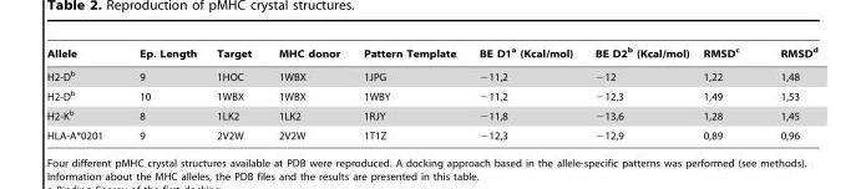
<table><thead><tr><td>Allele</td><td>Ep. Length</td><td>Target</td><td>MHC donor</td><td>Pattern Template</td><td>BE D1<sup>a</sup> (Kcal/mol)</td><td>BE D2<sup>b</sup> (Kcal/mol)</td><td>RMSD<sup>c</sup></td><td>RMSD<sup>d</sup></td></tr></thead><tbody><tr><td>H2-D<sup>b</sup></td><td>9</td><td>1HOC</td><td>1WBX</td><td>1JPG</td><td>−11,2</td><td>−12</td><td>1,22</td><td>1,48</td></tr><tr><td>H2-D<sup>b</sup></td><td>10</td><td>1WBX</td><td>1WBX</td><td>1WBY</td><td>−11,2</td><td>−12,3</td><td>1,49</td><td>1,53</td></tr><tr><td>H2-K<sup>b</sup></td><td>8</td><td>1LK2</td><td>1LK2</td><td>1RJY</td><td>−11,8</td><td>−13,6</td><td>1,28</td><td>1,45</td></tr><tr><td>HLA-A*0201</td><td>9</td><td>2V2W</td><td>2V2W</td><td>1T1Z</td><td>−12,3</td><td>−12,9</td><td>0,89</td><td>0,96</td></tr></tbody></table>